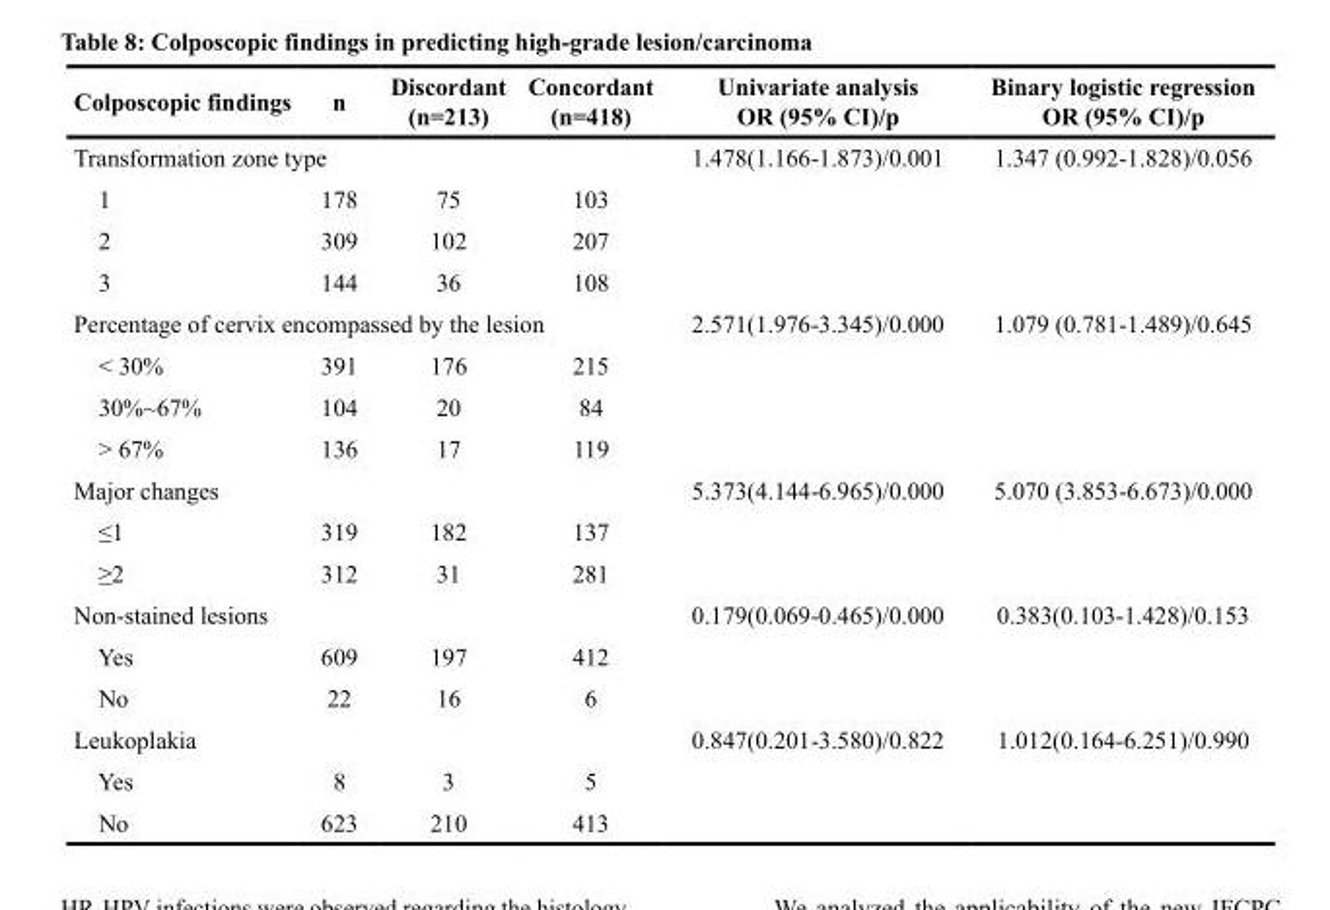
<table><thead><tr><td>Colposcopic findings</td><td>n</td><td>Discordant (n=213)</td><td>Concordant (n=418)</td><td>Univariate analysis OR (95% CI)/p</td><td>Binary logistic regression OR (95% CI)/p</td></tr></thead><tbody><tr><td colspan="4">Transformation zone type</td><td>1.478(1.166-1.873)/0.001</td><td>1.347 (0.992-1.828)/0.056</td></tr><tr><td>1</td><td>178</td><td>75</td><td>103</td><td></td><td></td></tr><tr><td>2</td><td>309</td><td>102</td><td>207</td><td></td><td></td></tr><tr><td>3</td><td>144</td><td>36</td><td>108</td><td></td><td></td></tr><tr><td colspan="4">Percentage of cervix encompassed by the lesion</td><td>2.571(1.976-3.345)/0.000</td><td>1.079 (0.781-1.489)/0.645</td></tr><tr><td>&lt; 30%</td><td>391</td><td>176</td><td>215</td><td></td><td></td></tr><tr><td>30%~67%</td><td>104</td><td>20</td><td>84</td><td></td><td></td></tr><tr><td>&gt; 67%</td><td>136</td><td>17</td><td>119</td><td></td><td></td></tr><tr><td colspan="4">Major changes</td><td>5.373(4.144-6.965)/0.000</td><td>5.070 (3.853-6.673)/0.000</td></tr><tr><td>≤1</td><td>319</td><td>182</td><td>137</td><td></td><td></td></tr><tr><td>≥2</td><td>312</td><td>31</td><td>281</td><td></td><td></td></tr><tr><td colspan="4">Non-stained lesions</td><td>0.179(0.069-0.465)/0.000</td><td>0.383(0.103-1.428)/0.153</td></tr><tr><td>Yes</td><td>609</td><td>197</td><td>412</td><td></td><td></td></tr><tr><td>No</td><td>22</td><td>16</td><td>6</td><td></td><td></td></tr><tr><td colspan="4">Leukoplakia</td><td>0.847(0.201-3.580)/0.822</td><td>1.012(0.164-6.251)/0.990</td></tr><tr><td>Yes</td><td>8</td><td>3</td><td>5</td><td></td><td></td></tr><tr><td>No</td><td>623</td><td>210</td><td>413</td><td></td><td></td></tr></tbody></table>